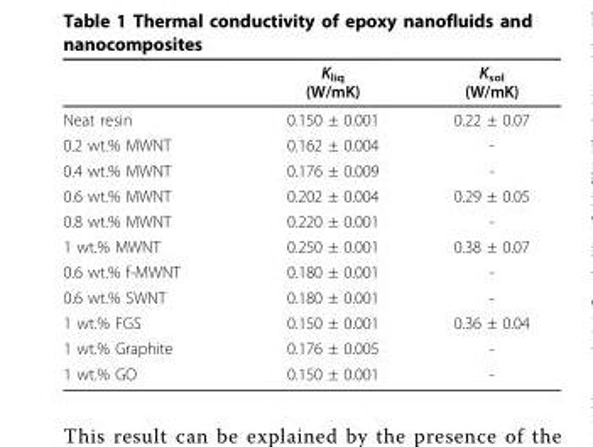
<table><thead><tr><td></td><td>K<sub>liq</sub> (W/mK)</td><td>K<sub>sol</sub> (W/mK)</td></tr></thead><tbody><tr><td>Neat resin</td><td>0.150 ± 0.001</td><td>0.22 ± 0.07</td></tr><tr><td>0.2 wt.% MWNT</td><td>0.162 ± 0.004</td><td>-</td></tr><tr><td>0.4 wt.% MWNT</td><td>0.176 ± 0.009</td><td>-</td></tr><tr><td>0.6 wt.% MWNT</td><td>0.202 ± 0.004</td><td>0.29 ± 0.05</td></tr><tr><td>0.8 wt.% MWNT</td><td>0.220 ± 0.001</td><td>-</td></tr><tr><td>1 wt.% MWNT</td><td>0.250 ± 0.001</td><td>0.38 ± 0.07</td></tr><tr><td>0.6 wt.% f-MWNT</td><td>0.180 ± 0.001</td><td>-</td></tr><tr><td>0.6 wt.% SWNT</td><td>0.180 ± 0.001</td><td>-</td></tr><tr><td>1 wt.% FGS</td><td>0.150 ± 0.001</td><td>0.36 ± 0.04</td></tr><tr><td>1 wt.% Graphite</td><td>0.176 ± 0.005</td><td>-</td></tr><tr><td>1 wt.% GO</td><td>0.150 ± 0.001</td><td>-</td></tr></tbody></table>